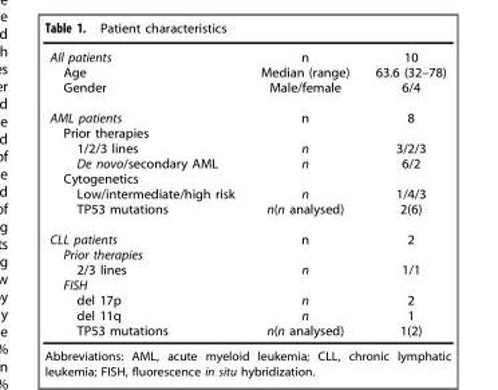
<table><tbody><tr><td>All patients</td><td>n</td><td>10</td></tr><tr><td>Age</td><td>Median (range)</td><td>63.6 (32–78)</td></tr><tr><td>Gender</td><td>Male/female</td><td>6/4</td></tr><tr><td>AML patients</td><td>n</td><td>8</td></tr><tr><td colspan="3">Prior therapies</td></tr><tr><td>1/2/3 lines</td><td>n</td><td>3/2/3</td></tr><tr><td>De novo/secondary AML</td><td>n</td><td>6/2</td></tr><tr><td colspan="3">Cytogenetics</td></tr><tr><td>Low/intermediate/high risk</td><td>n</td><td>1/4/3</td></tr><tr><td>TP53 mutations</td><td>n(n analysed)</td><td>2(6)</td></tr><tr><td>CLL patients</td><td>n</td><td>2</td></tr><tr><td colspan="3">Prior therapies</td></tr><tr><td>2/3 lines</td><td>n</td><td>1/1</td></tr><tr><td colspan="3">FISH</td></tr><tr><td>del 17p</td><td>n</td><td>2</td></tr><tr><td>del 11q</td><td>n</td><td>1</td></tr><tr><td>TP53 mutations</td><td>n(n analysed)</td><td>1(2)</td></tr></tbody></table>